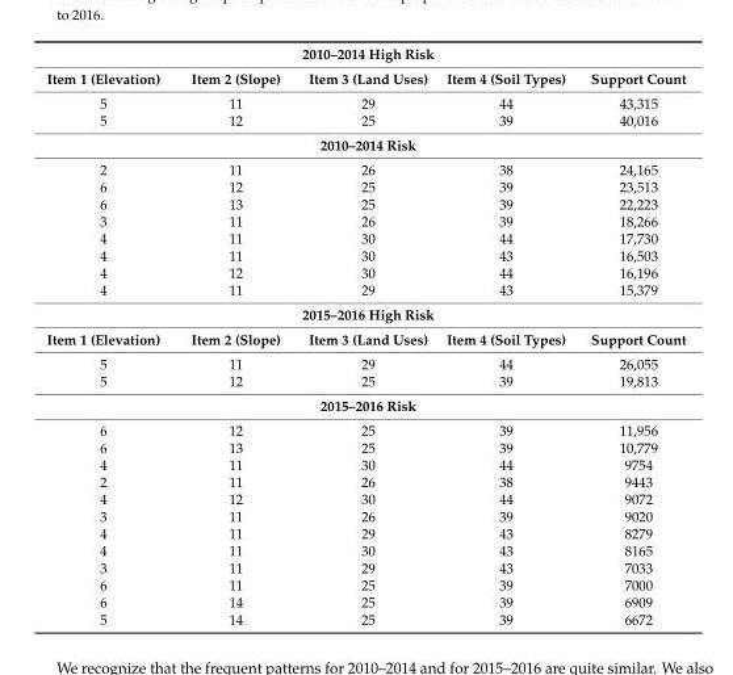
<table><tbody><tr><td colspan="5">2010–2014 High Risk</td></tr><tr><td>Item 1 (Elevation)</td><td>Item 2 (Slope)</td><td>Item 3 (Land Uses)</td><td>Item 4 (Soil Types)</td><td>Support Count</td></tr><tr><td>5</td><td>11</td><td>29</td><td>44</td><td>43,315</td></tr><tr><td>5</td><td>12</td><td>25</td><td>39</td><td>40,016</td></tr><tr><td colspan="5">2010–2014 Risk</td></tr><tr><td>2</td><td>11</td><td>26</td><td>38</td><td>24,165</td></tr><tr><td>6</td><td>12</td><td>25</td><td>39</td><td>23,513</td></tr><tr><td>6</td><td>13</td><td>25</td><td>39</td><td>22,223</td></tr><tr><td>3</td><td>11</td><td>26</td><td>39</td><td>18,266</td></tr><tr><td>4</td><td>11</td><td>30</td><td>44</td><td>17,730</td></tr><tr><td>4</td><td>11</td><td>30</td><td>43</td><td>16,503</td></tr><tr><td>4</td><td>12</td><td>30</td><td>44</td><td>16,196</td></tr><tr><td>4</td><td>11</td><td>29</td><td>43</td><td>15,379</td></tr><tr><td colspan="5">2015–2016 High Risk</td></tr><tr><td>Item 1 (Elevation)</td><td>Item 2 (Slope)</td><td>Item 3 (Land Uses)</td><td>Item 4 (Soil Types)</td><td>Support Count</td></tr><tr><td>5</td><td>11</td><td>29</td><td>44</td><td>26,055</td></tr><tr><td>5</td><td>12</td><td>25</td><td>39</td><td>19,813</td></tr><tr><td colspan="5">2015–2016 Risk</td></tr><tr><td>6</td><td>12</td><td>25</td><td>39</td><td>11,956</td></tr><tr><td>6</td><td>13</td><td>25</td><td>39</td><td>10,779</td></tr><tr><td>4</td><td>11</td><td>30</td><td>44</td><td>9754</td></tr><tr><td>2</td><td>11</td><td>26</td><td>38</td><td>9443</td></tr><tr><td>4</td><td>12</td><td>30</td><td>44</td><td>9072</td></tr><tr><td>3</td><td>11</td><td>26</td><td>39</td><td>9020</td></tr><tr><td>4</td><td>11</td><td>29</td><td>43</td><td>8279</td></tr><tr><td>4</td><td>11</td><td>30</td><td>43</td><td>8165</td></tr><tr><td>3</td><td>11</td><td>29</td><td>43</td><td>7033</td></tr><tr><td>6</td><td>11</td><td>25</td><td>39</td><td>7000</td></tr><tr><td>6</td><td>14</td><td>25</td><td>39</td><td>6909</td></tr><tr><td>5</td><td>14</td><td>25</td><td>39</td><td>6672</td></tr></tbody></table>